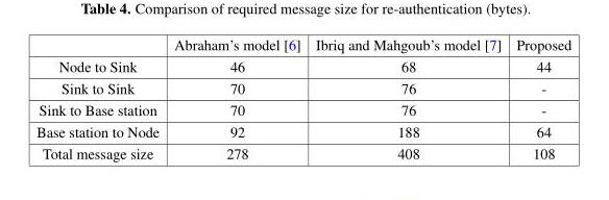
<table><thead><tr><td></td><td>Abraham’s model [6]</td><td>Ibriq and Mahgoub’s model [7]</td><td>Proposed</td></tr></thead><tbody><tr><td>Node to Sink</td><td>46</td><td>68</td><td>44</td></tr><tr><td>Sink to Sink</td><td>70</td><td>76</td><td>-</td></tr><tr><td>Sink to Base station</td><td>70</td><td>76</td><td>-</td></tr><tr><td>Base station to Node</td><td>92</td><td>188</td><td>64</td></tr><tr><td>Total message size</td><td>278</td><td>408</td><td>108</td></tr></tbody></table>